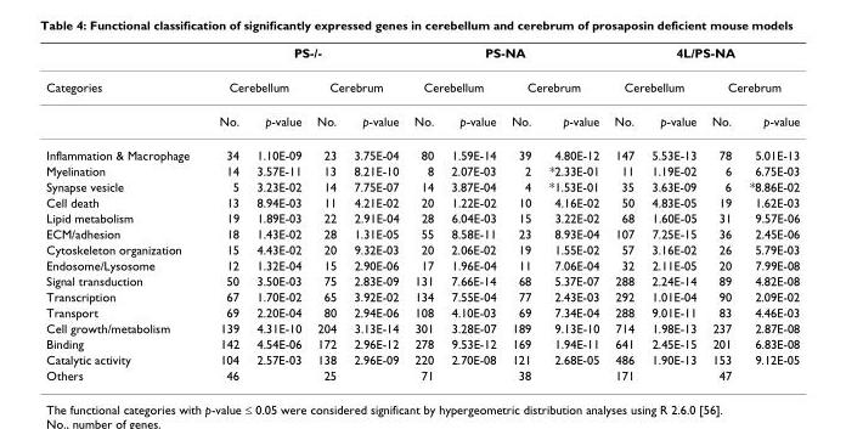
<table><thead><tr><td rowspan="3">Categories</td><td colspan="4">PS-/-</td><td colspan="4">PS-NA</td><td colspan="4">4L/PS-NA</td></tr><tr><td colspan="2">Cerebellum</td><td colspan="2">Cerebrum</td><td colspan="2">Cerebellum</td><td colspan="2">Cerebrum</td><td colspan="2">Cerebellum</td><td colspan="2">Cerebrum</td></tr><tr><td>No.</td><td>p-value</td><td>No.</td><td>p-value</td><td>No.</td><td>p-value</td><td>No.</td><td>p-value</td><td>No.</td><td>p-value</td><td>No.</td><td>p-value</td></tr></thead><tbody><tr><td>Inflammation &amp; Macrophage</td><td>34</td><td>1.10E-09</td><td>23</td><td>3.75E-04</td><td>80</td><td>1.59E-14</td><td>39</td><td>4.80E-12</td><td>147</td><td>5.53E-13</td><td>78</td><td>5.01E-13</td></tr><tr><td>Myelination</td><td>14</td><td>3.57E-11</td><td>13</td><td>8.21E-10</td><td>8</td><td>2.07E-03</td><td>2</td><td>*2.33E-01</td><td>11</td><td>1.19E-02</td><td>6</td><td>6.75E-03</td></tr><tr><td>Synapse vesicle</td><td>5</td><td>3.23E-02</td><td>14</td><td>7.75E-07</td><td>14</td><td>3.87E-04</td><td>4</td><td>*1.53E-01</td><td>35</td><td>3.63E-09</td><td>6</td><td>*8.86E-02</td></tr><tr><td>Cell death</td><td>13</td><td>8.94E-03</td><td>11</td><td>4.21E-02</td><td>20</td><td>1.22E-02</td><td>10</td><td>4.16E-02</td><td>50</td><td>4.83E-05</td><td>19</td><td>1.62E-03</td></tr><tr><td>Lipid metabolism</td><td>19</td><td>1.89E-03</td><td>22</td><td>2.91E-04</td><td>28</td><td>6.04E-03</td><td>15</td><td>3.22E-02</td><td>68</td><td>1.60E-05</td><td>31</td><td>9.57E-06</td></tr><tr><td>ECM/adhesion</td><td>18</td><td>1.43E-02</td><td>28</td><td>1.31E-05</td><td>55</td><td>8.58E-11</td><td>23</td><td>8.93E-04</td><td>107</td><td>7.25E-15</td><td>36</td><td>2.45E-06</td></tr><tr><td>Cytoskeleton organization</td><td>15</td><td>4.43E-02</td><td>20</td><td>9.32E-03</td><td>20</td><td>2.06E-02</td><td>19</td><td>1.55E-02</td><td>57</td><td>3.16E-02</td><td>26</td><td>5.79E-03</td></tr><tr><td>Endosome/Lysosome</td><td>12</td><td>1.32E-04</td><td>15</td><td>2.90E-06</td><td>17</td><td>1.96E-04</td><td>11</td><td>7.06E-04</td><td>32</td><td>2.11E-05</td><td>20</td><td>7.99E-08</td></tr><tr><td>Signal transduction</td><td>50</td><td>3.50E-03</td><td>75</td><td>2.83E-09</td><td>131</td><td>7.66E-14</td><td>68</td><td>5.37E-07</td><td>288</td><td>2.24E-14</td><td>89</td><td>4.82E-08</td></tr><tr><td>Transcription</td><td>67</td><td>1.70E-02</td><td>65</td><td>3.92E-02</td><td>134</td><td>7.55E-04</td><td>77</td><td>2.43E-03</td><td>292</td><td>1.01E-04</td><td>90</td><td>2.09E-02</td></tr><tr><td>Transport</td><td>69</td><td>2.20E-04</td><td>80</td><td>2.94E-06</td><td>108</td><td>4.10E-03</td><td>69</td><td>7.34E-04</td><td>288</td><td>9.01E-11</td><td>83</td><td>4.46E-03</td></tr><tr><td>Cell growth/metabolism</td><td>139</td><td>4.31E-10</td><td>204</td><td>3.13E-14</td><td>301</td><td>3.28E-07</td><td>189</td><td>9.13E-10</td><td>714</td><td>1.98E-13</td><td>237</td><td>2.87E-08</td></tr><tr><td>Binding</td><td>142</td><td>4.54E-06</td><td>172</td><td>2.96E-12</td><td>278</td><td>9.53E-12</td><td>169</td><td>1.94E-11</td><td>641</td><td>2.45E-15</td><td>201</td><td>6.83E-08</td></tr><tr><td>Catalytic activity</td><td>104</td><td>2.57E-03</td><td>138</td><td>2.96E-09</td><td>220</td><td>2.70E-08</td><td>121</td><td>2.68E-05</td><td>486</td><td>1.90E-13</td><td>153</td><td>9.12E-05</td></tr><tr><td>Others</td><td>46</td><td></td><td>25</td><td></td><td>71</td><td></td><td>38</td><td></td><td>171</td><td></td><td>47</td><td></td></tr></tbody></table>